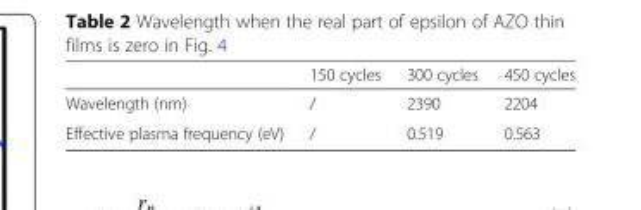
<table><thead><tr><td></td><td>150 cycles</td><td>300 cycles</td><td>450 cycles</td></tr></thead><tbody><tr><td>Wavelength (nm)</td><td>/</td><td>2390</td><td>2204</td></tr><tr><td>Effective plasma frequency (eV)</td><td>/</td><td>0.519</td><td>0.563</td></tr></tbody></table>